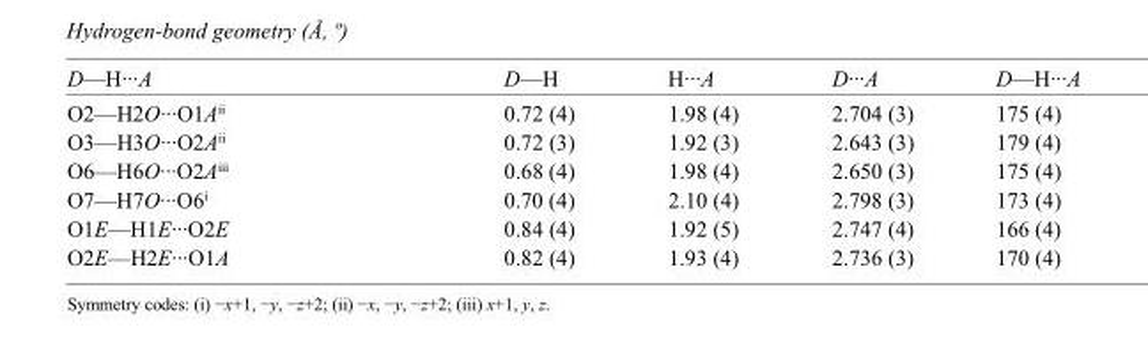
<table><tbody><tr><td>D—H···A</td><td>D—H</td><td>H···A</td><td>D···A</td><td>D—H···A</td></tr><tr><td>O2—H2O···O1A<sup>ii</sup></td><td>0.72 (4)</td><td>1.98 (4)</td><td>2.704 (3)</td><td>175 (4)</td></tr><tr><td>O3—H3O···O2A<sup>ii</sup></td><td>0.72 (3)</td><td>1.92 (3)</td><td>2.643 (3)</td><td>179 (4)</td></tr><tr><td>O6—H6O···O2A<sup>iii</sup></td><td>0.68 (4)</td><td>1.98 (4)</td><td>2.650 (3)</td><td>175 (4)</td></tr><tr><td>O7—H7O···O6<sup>i</sup></td><td>0.70 (4)</td><td>2.10 (4)</td><td>2.798 (3)</td><td>173 (4)</td></tr><tr><td>O1E—H1E···O2E</td><td>0.84 (4)</td><td>1.92 (5)</td><td>2.747 (4)</td><td>166 (4)</td></tr><tr><td>O2E—H2E···O1A</td><td>0.82 (4)</td><td>1.93 (4)</td><td>2.736 (3)</td><td>170 (4)</td></tr></tbody></table>